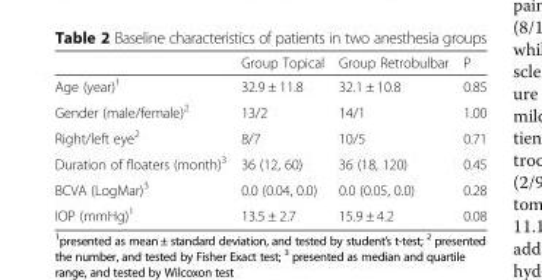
<table><thead><tr><td></td><td>Group Topical</td><td>Group Retrobulbar</td><td>P</td></tr></thead><tbody><tr><td>Age (year)<sup>1</sup></td><td>32.9 ± 11.8</td><td>32.1 ± 10.8</td><td>0.85</td></tr><tr><td>Gender (male/female)<sup>2</sup></td><td>13/2</td><td>14/1</td><td>1.00</td></tr><tr><td>Right/left eye<sup>2</sup></td><td>8/7</td><td>10/5</td><td>0.71</td></tr><tr><td>Duration of floaters (month)<sup>3</sup></td><td>36 (12, 60)</td><td>36 (18, 120)</td><td>0.45</td></tr><tr><td>BCVA (LogMar)<sup>3</sup></td><td>0.0 (0.04, 0.0)</td><td>0.0 (0.05, 0.0)</td><td>0.28</td></tr><tr><td>IOP (mmHg)<sup>1</sup></td><td>13.5 ± 2.7</td><td>15.9 ± 4.2</td><td>0.08</td></tr></tbody></table>